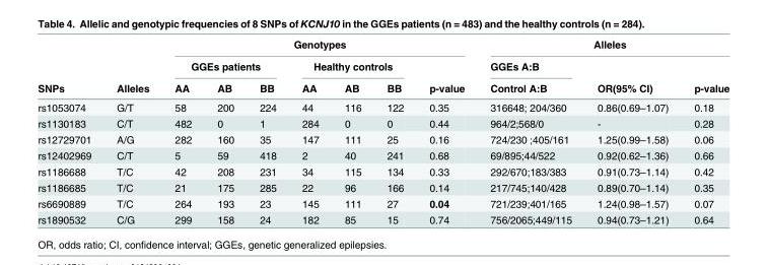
<table><thead><tr><td rowspan="3">SNPs</td><td rowspan="3">Alleles</td><td colspan="7">Genotypes</td><td colspan="3">Alleles</td></tr><tr><td colspan="3">GGEs patients</td><td colspan="3">Healthy controls</td><td rowspan="2">p-value</td><td rowspan="2">GGEs A:B Control A:B</td><td rowspan="2">OR(95% CI)</td><td rowspan="2">p-value</td></tr><tr><td>AA</td><td>AB</td><td>BB</td><td>AA</td><td>AB</td><td>BB</td></tr></thead><tbody><tr><td>rs1053074</td><td>G/T</td><td>58</td><td>200</td><td>224</td><td>44</td><td>116</td><td>122</td><td>0.35</td><td>316648; 204/360</td><td>0.86(0.69–1.07)</td><td>0.18</td></tr><tr><td>rs1130183</td><td>C/T</td><td>482</td><td>0</td><td>1</td><td>284</td><td>0</td><td>0</td><td>0.44</td><td>964/2;568/0</td><td>-</td><td>0.28</td></tr><tr><td>rs12729701</td><td>A/G</td><td>282</td><td>160</td><td>35</td><td>147</td><td>111</td><td>25</td><td>0.16</td><td>724/230 ;405/161</td><td>1.25(0.99–1.58)</td><td>0.06</td></tr><tr><td>rs12402969</td><td>C/T</td><td>5</td><td>59</td><td>418</td><td>2</td><td>40</td><td>241</td><td>0.68</td><td>69/895;44/522</td><td>0.92(0.62–1.36)</td><td>0.66</td></tr><tr><td>rs1186688</td><td>T/C</td><td>42</td><td>208</td><td>231</td><td>34</td><td>115</td><td>134</td><td>0.33</td><td>292/670;183/383</td><td>0.91(0.73–1.14)</td><td>0.42</td></tr><tr><td>rs1186685</td><td>T/C</td><td>21</td><td>175</td><td>285</td><td>22</td><td>96</td><td>166</td><td>0.14</td><td>217/745;140/428</td><td>0.89(0.70–1.14)</td><td>0.35</td></tr><tr><td>rs6690889</td><td>T/C</td><td>264</td><td>193</td><td>23</td><td>145</td><td>111</td><td>27</td><td>0.04</td><td>721/239;401/165</td><td>1.24(0.98–1.57)</td><td>0.07</td></tr><tr><td>rs1890532</td><td>C/G</td><td>299</td><td>158</td><td>24</td><td>182</td><td>85</td><td>15</td><td>0.74</td><td>756/2065;449/115</td><td>0.94(0.73–1.21)</td><td>0.64</td></tr></tbody></table>